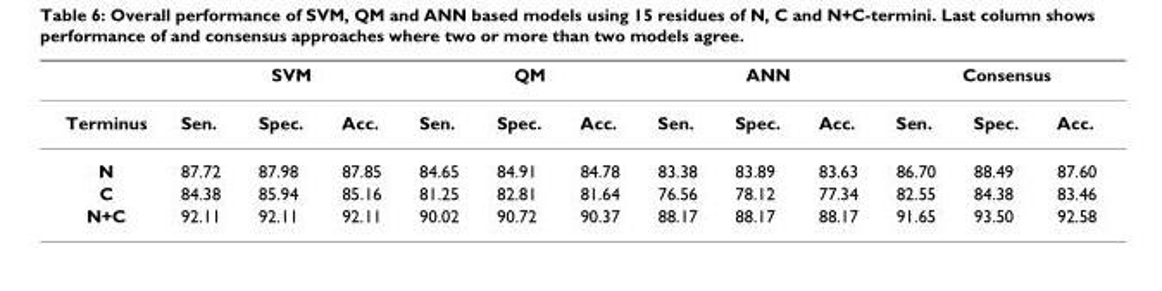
<table><thead><tr><td rowspan="2">Terminus</td><td colspan="3">SVM</td><td colspan="3">QM</td><td colspan="3">ANN</td><td colspan="3">Consensus</td></tr><tr><td>Sen.</td><td>Spec.</td><td>Acc.</td><td>Sen.</td><td>Spec.</td><td>Acc.</td><td>Sen.</td><td>Spec.</td><td>Acc.</td><td>Sen.</td><td>Spec.</td><td>Acc.</td></tr></thead><tbody><tr><td>N</td><td>87.72</td><td>87.98</td><td>87.85</td><td>84.65</td><td>84.91</td><td>84.78</td><td>83.38</td><td>83.89</td><td>83.63</td><td>86.70</td><td>88.49</td><td>87.60</td></tr><tr><td>C</td><td>84.38</td><td>85.94</td><td>85.16</td><td>81.25</td><td>82.81</td><td>81.64</td><td>76.56</td><td>78.12</td><td>77.34</td><td>82.55</td><td>84.38</td><td>83.46</td></tr><tr><td>N+C</td><td>92.11</td><td>92.11</td><td>92.11</td><td>90.02</td><td>90.72</td><td>90.37</td><td>88.17</td><td>88.17</td><td>88.17</td><td>91.65</td><td>93.50</td><td>92.58</td></tr></tbody></table>